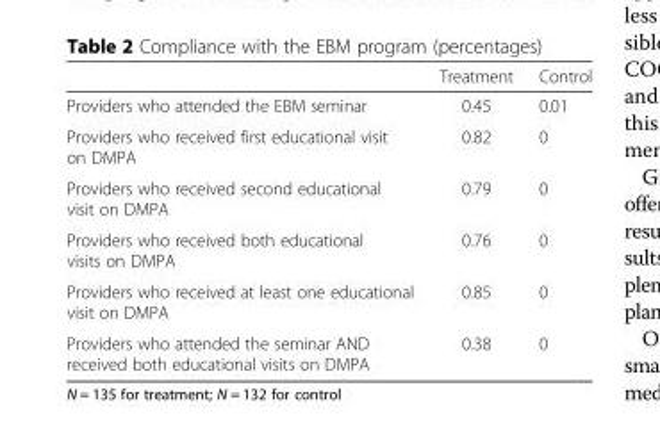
<table><thead><tr><td></td><td>Treatment</td><td>Control</td></tr></thead><tbody><tr><td>Providers who attended the EBM seminar</td><td>0.45</td><td>0.01</td></tr><tr><td>Providers who received first educational visit on DMPA</td><td>0.82</td><td>0</td></tr><tr><td>Providers who received second educational visit on DMPA</td><td>0.79</td><td>0</td></tr><tr><td>Providers who received both educational visits on DMPA</td><td>0.76</td><td>0</td></tr><tr><td>Providers who received at least one educational visit on DMPA</td><td>0.85</td><td>0</td></tr><tr><td>Providers who attended the seminar AND received both educational visits on DMPA</td><td>0.38</td><td>0</td></tr></tbody></table>